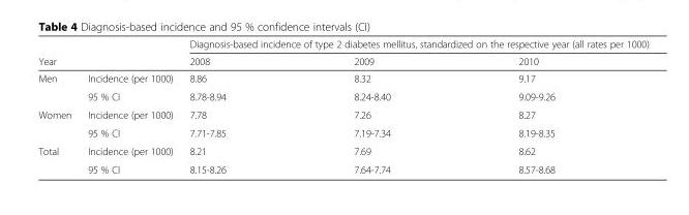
<table><thead><tr><td></td><td></td><td colspan="3">Diagnosis-based incidence of type 2 diabetes mellitus, standardized on the respective year (all rates per 1000)</td></tr><tr><td colspan="2">Year</td><td>2008</td><td>2009</td><td>2010</td></tr></thead><tbody><tr><td rowspan="2">Men</td><td>Incidence (per 1000)</td><td>8.86</td><td>8.32</td><td>9.17</td></tr><tr><td>95 % CI</td><td>8.78-8.94</td><td>8.24-8.40</td><td>9.09-9.26</td></tr><tr><td rowspan="2">Women</td><td>Incidence (per 1000)</td><td>7.78</td><td>7.26</td><td>8.27</td></tr><tr><td>95 % CI</td><td>7.71-7.85</td><td>7.19-7.34</td><td>8.19-8.35</td></tr><tr><td rowspan="2">Total</td><td>Incidence (per 1000)</td><td>8.21</td><td>7.69</td><td>8.62</td></tr><tr><td>95 % CI</td><td>8.15-8.26</td><td>7.64-7.74</td><td>8.57-8.68</td></tr></tbody></table>